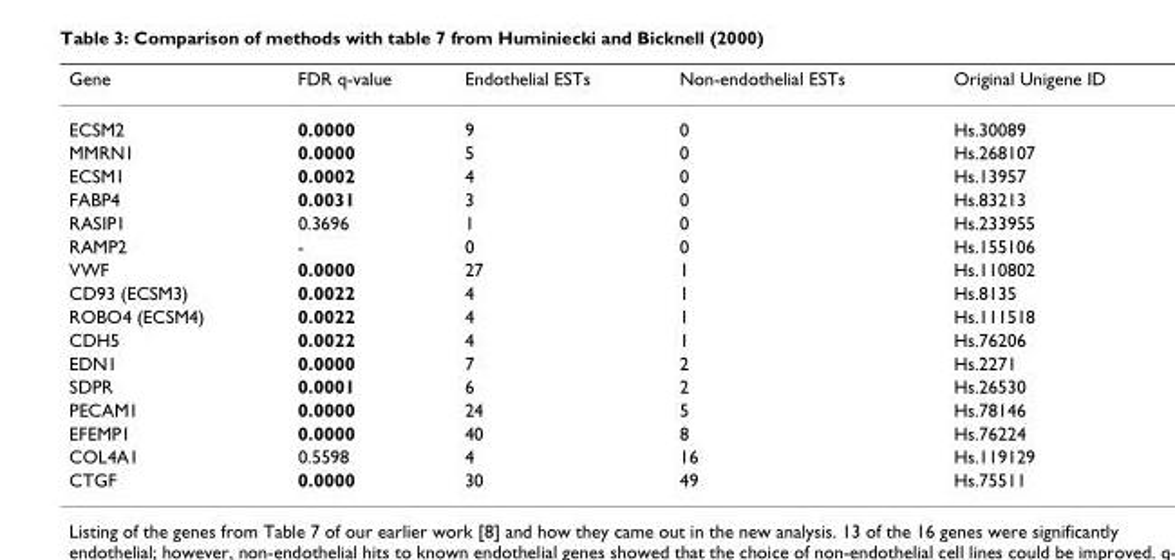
<table><thead><tr><td>Gene</td><td>FDR q-value</td><td>Endothelial ESTs</td><td>Non-endothelial ESTs</td><td>Original Unigene ID</td></tr></thead><tbody><tr><td>ECSM2</td><td>0.0000</td><td>9</td><td>0</td><td>Hs.30089</td></tr><tr><td>MMRN1</td><td>0.0000</td><td>5</td><td>0</td><td>Hs.268107</td></tr><tr><td>ECSM1</td><td>0.0002</td><td>4</td><td>0</td><td>Hs.13957</td></tr><tr><td>FABP4</td><td>0.0031</td><td>3</td><td>0</td><td>Hs.83213</td></tr><tr><td>RASIP1</td><td>0.3696</td><td>1</td><td>0</td><td>Hs.233955</td></tr><tr><td>RAMP2</td><td>-</td><td>0</td><td>0</td><td>Hs.155106</td></tr><tr><td>VWF</td><td>0.0000</td><td>27</td><td>1</td><td>Hs.110802</td></tr><tr><td>CD93 (ECSM3)</td><td>0.0022</td><td>4</td><td>1</td><td>Hs.8135</td></tr><tr><td>ROBO4 (ECSM4)</td><td>0.0022</td><td>4</td><td>1</td><td>Hs.111518</td></tr><tr><td>CDH5</td><td>0.0022</td><td>4</td><td>1</td><td>Hs.76206</td></tr><tr><td>EDN1</td><td>0.0000</td><td>7</td><td>2</td><td>Hs.2271</td></tr><tr><td>SDPR</td><td>0.0001</td><td>6</td><td>2</td><td>Hs.26530</td></tr><tr><td>PECAM1</td><td>0.0000</td><td>24</td><td>5</td><td>Hs.78146</td></tr><tr><td>EFEMP1</td><td>0.0000</td><td>40</td><td>8</td><td>Hs.76224</td></tr><tr><td>COL4A1</td><td>0.5598</td><td>4</td><td>16</td><td>Hs.119129</td></tr><tr><td>CTGF</td><td>0.0000</td><td>30</td><td>49</td><td>Hs.75511</td></tr></tbody></table>